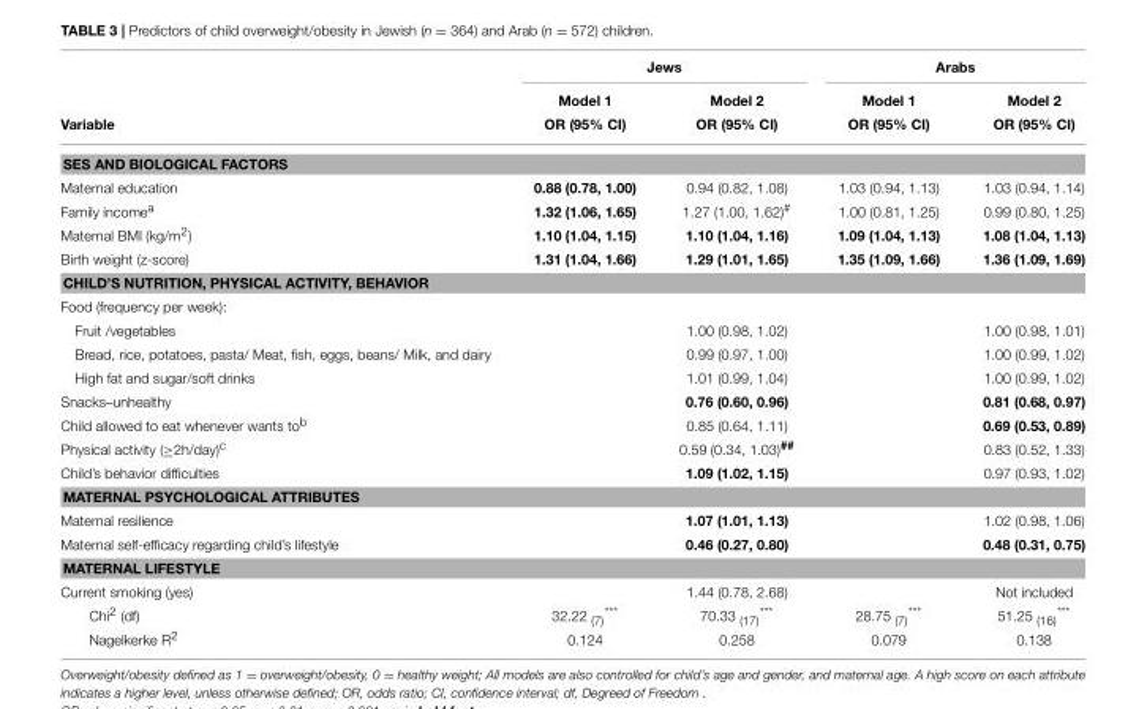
<table><thead><tr><td rowspan="3">Variable</td><td colspan="2">Jews</td><td colspan="2">Arabs</td></tr><tr><td rowspan="2">Model 1 OR (95% CI)</td><td rowspan="2">Model 2 OR (95% CI)</td><td rowspan="2">Model 1 OR (95% CI)</td><td rowspan="2">Model 2 OR (95% CI)</td></tr><tr></tr></thead><tbody><tr><td colspan="5">SES AND BIOLOGICAL FACTORS</td></tr><tr><td>Maternal education</td><td>0.88 (0.78, 1.00)</td><td>0.94 (0.82, 1.08)</td><td>1.03 (0.94, 1.13)</td><td>1.03 (0.94, 1.14)</td></tr><tr><td>Family income<sup>a</sup></td><td>1.32 (1.06, 1.65)</td><td>1.27 (1.00, 1.62)<sup>#</sup></td><td>1.00 (0.81, 1.25)</td><td>0.99 (0.80, 1.25)</td></tr><tr><td>Maternal BMI (kg/m<sup>2</sup>)</td><td>1.10 (1.04, 1.15)</td><td>1.10 (1.04, 1.16)</td><td>1.09 (1.04, 1.13)</td><td>1.08 (1.04, 1.13)</td></tr><tr><td>Birth weight (z-score)</td><td>1.31 (1.04, 1.66)</td><td>1.29 (1.01, 1.65)</td><td>1.35 (1.09, 1.66)</td><td>1.36 (1.09, 1.69)</td></tr><tr><td colspan="5">CHILD’S NUTRITION, PHYSICAL ACTIVITY, BEHAVIOR</td></tr><tr><td colspan="5">Food (frequency per week):</td></tr><tr><td>Fruit /vegetables</td><td></td><td>1.00 (0.98, 1.02)</td><td></td><td>1.00 (0.98, 1.01)</td></tr><tr><td>Bread, rice, potatoes, pasta/ Meat, fish, eggs, beans/ Milk, and dairy</td><td></td><td>0.99 (0.97, 1.00)</td><td></td><td>1.00 (0.99, 1.02)</td></tr><tr><td>High fat and sugar/soft drinks</td><td></td><td>1.01 (0.99, 1.04)</td><td></td><td>1.00 (0.99, 1.02)</td></tr><tr><td>Snacks–unhealthy</td><td></td><td>0.76 (0.60, 0.96)</td><td></td><td>0.81 (0.68, 0.97)</td></tr><tr><td>Child allowed to eat whenever wants to<sup>b</sup></td><td></td><td>0.85 (0.64, 1.11)</td><td></td><td>0.69 (0.53, 0.89)</td></tr><tr><td>Physical activity (≥2h/day)<sup>c</sup></td><td></td><td>0.59 (0.34, 1.03)<sup>##</sup></td><td></td><td>0.83 (0.52, 1.33)</td></tr><tr><td>Child’s behavior difficulties</td><td></td><td>1.09 (1.02, 1.15)</td><td></td><td>0.97 (0.93, 1.02)</td></tr><tr><td colspan="5">MATERNAL PSYCHOLOGICAL ATTRIBUTES</td></tr><tr><td>Maternal resilience</td><td></td><td>1.07 (1.01, 1.13)</td><td></td><td>1.02 (0.98, 1.06)</td></tr><tr><td>Maternal self-efficacy regarding child’s lifestyle</td><td></td><td>0.46 (0.27, 0.80)</td><td></td><td>0.48 (0.31, 0.75)</td></tr><tr><td colspan="5">MATERNAL LIFESTYLE</td></tr><tr><td>Current smoking (yes)</td><td></td><td>1.44 (0.78, 2.68)</td><td></td><td>Not included</td></tr><tr><td>Chi<sup>2</sup> (df)</td><td>32.22 <sub>(7)</sub>***</td><td>70.33 <sub>(17)</sub>***</td><td>28.75 <sub>(7)</sub>***</td><td>51.25 <sub>(16)</sub>***</td></tr><tr><td>Nagelkerke R<sup>2</sup></td><td>0.124</td><td>0.258</td><td>0.079</td><td>0.138</td></tr></tbody></table>